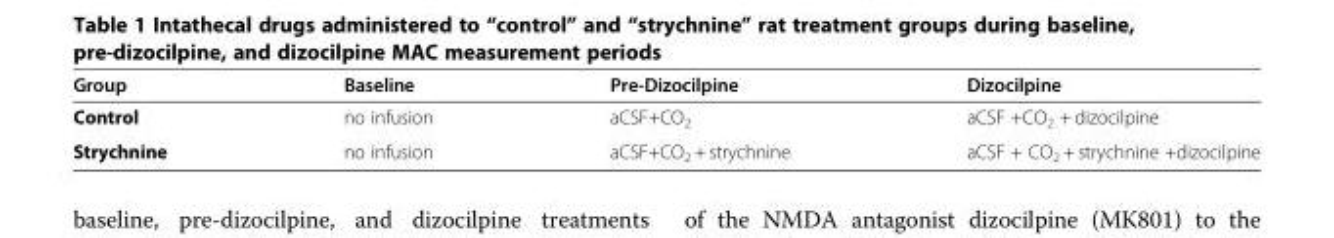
<table><thead><tr><td>Group</td><td>Baseline</td><td>Pre-Dizocilpine</td><td>Dizocilpine</td></tr></thead><tbody><tr><td>Control</td><td>no infusion</td><td>aCSF+CO<sub>2</sub></td><td>aCSF +CO<sub>2</sub> + dizocilpine</td></tr><tr><td>Strychnine</td><td>no infusion</td><td>aCSF+CO<sub>2</sub> + strychnine</td><td>aCSF + CO<sub>2</sub> + strychnine +dizocilpine</td></tr></tbody></table>